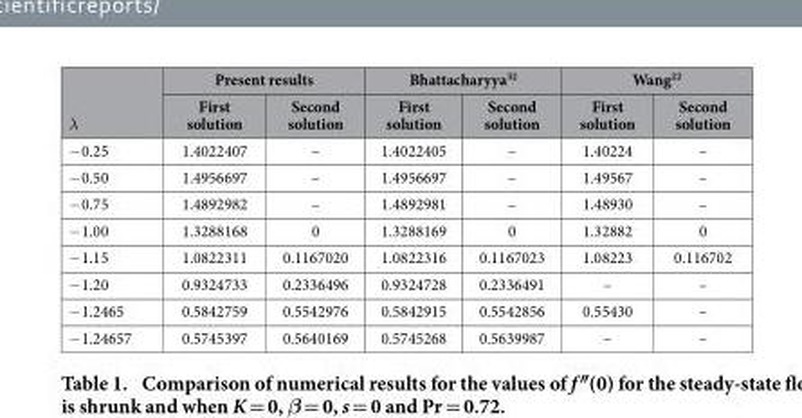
<table><thead><tr><td rowspan="2">λ</td><td colspan="2">Present results</td><td colspan="2">Bhattacharyya<sup>32</sup></td><td colspan="2">Wang<sup>22</sup></td></tr><tr><td>First solution</td><td>Second solution</td><td>First solution</td><td>Second solution</td><td>First solution</td><td>Second solution</td></tr></thead><tbody><tr><td>− 0.25</td><td>1.4022407</td><td>–</td><td>1.4022405</td><td>–</td><td>1.40224</td><td>–</td></tr><tr><td>− 0.50</td><td>1.4956697</td><td>–</td><td>1.4956697</td><td>–</td><td>1.49567</td><td>–</td></tr><tr><td>− 0.75</td><td>1.4892982</td><td>–</td><td>1.4892981</td><td>–</td><td>1.48930</td><td>–</td></tr><tr><td>− 1.00</td><td>1.3288168</td><td>0</td><td>1.3288169</td><td>0</td><td>1.32882</td><td>0</td></tr><tr><td>− 1.15</td><td>1.0822311</td><td>0.1167020</td><td>1.0822316</td><td>0.1167023</td><td>1.08223</td><td>0.116702</td></tr><tr><td>− 1.20</td><td>0.9324733</td><td>0.2336496</td><td>0.9324728</td><td>0.2336491</td><td>–</td><td>–</td></tr><tr><td>− 1.2465</td><td>0.5842759</td><td>0.5542976</td><td>0.5842915</td><td>0.5542856</td><td>0.55430</td><td>–</td></tr><tr><td>− 1.24657</td><td>0.5745397</td><td>0.5640169</td><td>0.5745268</td><td>0.5639987</td><td>–</td><td>–</td></tr></tbody></table>